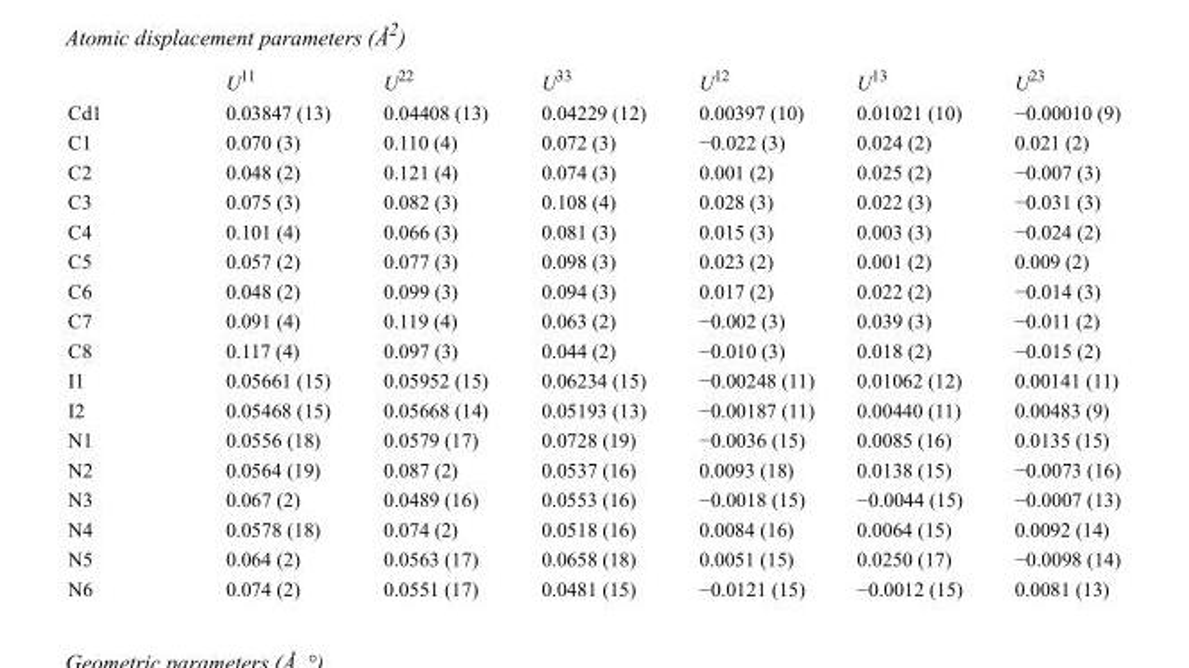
<table><thead><tr><td></td><td>U<sup>11</sup></td><td>U<sup>22</sup></td><td>U<sup>33</sup></td><td>U<sup>12</sup></td><td>U<sup>13</sup></td><td>U<sup>23</sup></td></tr></thead><tbody><tr><td>Cd1</td><td>0.03847 (13)</td><td>0.04408 (13)</td><td>0.04229 (12)</td><td>0.00397 (10)</td><td>0.01021 (10)</td><td>−0.00010 (9)</td></tr><tr><td>C1</td><td>0.070 (3)</td><td>0.110 (4)</td><td>0.072 (3)</td><td>−0.022 (3)</td><td>0.024 (2)</td><td>0.021 (2)</td></tr><tr><td>C2</td><td>0.048 (2)</td><td>0.121 (4)</td><td>0.074 (3)</td><td>0.001 (2)</td><td>0.025 (2)</td><td>−0.007 (3)</td></tr><tr><td>C3</td><td>0.075 (3)</td><td>0.082 (3)</td><td>0.108 (4)</td><td>0.028 (3)</td><td>0.022 (3)</td><td>−0.031 (3)</td></tr><tr><td>C4</td><td>0.101 (4)</td><td>0.066 (3)</td><td>0.081 (3)</td><td>0.015 (3)</td><td>0.003 (3)</td><td>−0.024 (2)</td></tr><tr><td>C5</td><td>0.057 (2)</td><td>0.077 (3)</td><td>0.098 (3)</td><td>0.023 (2)</td><td>0.001 (2)</td><td>0.009 (2)</td></tr><tr><td>C6</td><td>0.048 (2)</td><td>0.099 (3)</td><td>0.094 (3)</td><td>0.017 (2)</td><td>0.022 (2)</td><td>−0.014 (3)</td></tr><tr><td>C7</td><td>0.091 (4)</td><td>0.119 (4)</td><td>0.063 (2)</td><td>−0.002 (3)</td><td>0.039 (3)</td><td>−0.011 (2)</td></tr><tr><td>C8</td><td>0.117 (4)</td><td>0.097 (3)</td><td>0.044 (2)</td><td>−0.010 (3)</td><td>0.018 (2)</td><td>−0.015 (2)</td></tr><tr><td>I1</td><td>0.05661 (15)</td><td>0.05952 (15)</td><td>0.06234 (15)</td><td>−0.00248 (11)</td><td>0.01062 (12)</td><td>0.00141 (11)</td></tr><tr><td>I2</td><td>0.05468 (15)</td><td>0.05668 (14)</td><td>0.05193 (13)</td><td>−0.00187 (11)</td><td>0.00440 (11)</td><td>0.00483 (9)</td></tr><tr><td>N1</td><td>0.0556 (18)</td><td>0.0579 (17)</td><td>0.0728 (19)</td><td>−0.0036 (15)</td><td>0.0085 (16)</td><td>0.0135 (15)</td></tr><tr><td>N2</td><td>0.0564 (19)</td><td>0.087 (2)</td><td>0.0537 (16)</td><td>0.0093 (18)</td><td>0.0138 (15)</td><td>−0.0073 (16)</td></tr><tr><td>N3</td><td>0.067 (2)</td><td>0.0489 (16)</td><td>0.0553 (16)</td><td>−0.0018 (15)</td><td>−0.0044 (15)</td><td>−0.0007 (13)</td></tr><tr><td>N4</td><td>0.0578 (18)</td><td>0.074 (2)</td><td>0.0518 (16)</td><td>0.0084 (16)</td><td>0.0064 (15)</td><td>0.0092 (14)</td></tr><tr><td>N5</td><td>0.064 (2)</td><td>0.0563 (17)</td><td>0.0658 (18)</td><td>0.0051 (15)</td><td>0.0250 (17)</td><td>−0.0098 (14)</td></tr><tr><td>N6</td><td>0.074 (2)</td><td>0.0551 (17)</td><td>0.0481 (15)</td><td>−0.0121 (15)</td><td>−0.0012 (15)</td><td>0.0081 (13)</td></tr></tbody></table>